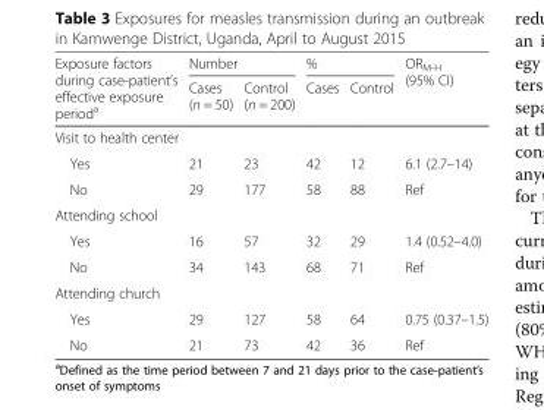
<table><thead><tr><td rowspan="2">Exposure factors during case-patient’s effective exposure period<sup>a</sup></td><td colspan="2">Number</td><td colspan="2">%</td><td rowspan="2">OR<sub>M-H</sub> (95% CI)</td></tr><tr><td>Cases (n = 50)</td><td>Control (n = 200)</td><td>Cases</td><td>Control</td></tr></thead><tbody><tr><td colspan="6">Visit to health center</td></tr><tr><td>Yes</td><td>21</td><td>23</td><td>42</td><td>12</td><td>6.1 (2.7–14)</td></tr><tr><td>No</td><td>29</td><td>177</td><td>58</td><td>88</td><td>Ref</td></tr><tr><td colspan="6">Attending school</td></tr><tr><td>Yes</td><td>16</td><td>57</td><td>32</td><td>29</td><td>1.4 (0.52–4.0)</td></tr><tr><td>No</td><td>34</td><td>143</td><td>68</td><td>71</td><td>Ref</td></tr><tr><td colspan="6">Attending church</td></tr><tr><td>Yes</td><td>29</td><td>127</td><td>58</td><td>64</td><td>0.75 (0.37–1.5)</td></tr><tr><td>No</td><td>21</td><td>73</td><td>42</td><td>36</td><td>Ref</td></tr></tbody></table>